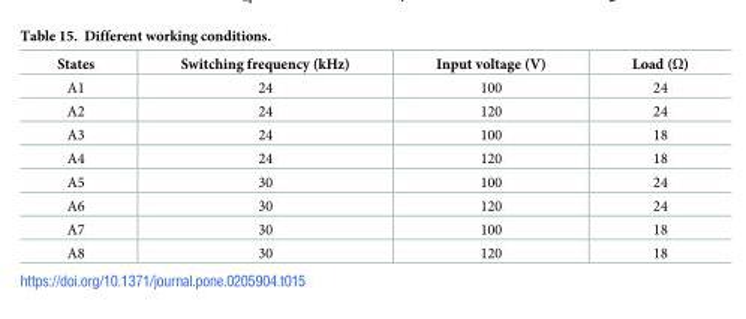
<table><thead><tr><td>States</td><td>Switching frequency (kHz)</td><td>Input voltage (V)</td><td>Load (Ω)</td></tr></thead><tbody><tr><td>A1</td><td>24</td><td>100</td><td>24</td></tr><tr><td>A2</td><td>24</td><td>120</td><td>24</td></tr><tr><td>A3</td><td>24</td><td>100</td><td>18</td></tr><tr><td>A4</td><td>24</td><td>120</td><td>18</td></tr><tr><td>A5</td><td>30</td><td>100</td><td>24</td></tr><tr><td>A6</td><td>30</td><td>120</td><td>24</td></tr><tr><td>A7</td><td>30</td><td>100</td><td>18</td></tr><tr><td>A8</td><td>30</td><td>120</td><td>18</td></tr></tbody></table>